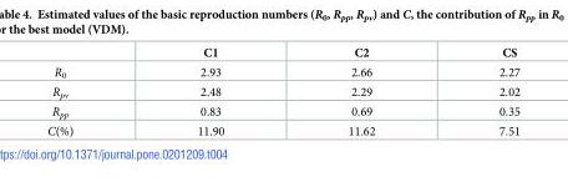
<table><thead><tr><td></td><td>C1</td><td>C2</td><td>CS</td></tr></thead><tbody><tr><td>R<sub>0</sub></td><td>2.93</td><td>2.66</td><td>2.27</td></tr><tr><td>R<sub>pv</sub></td><td>2.48</td><td>2.29</td><td>2.02</td></tr><tr><td>R<sub>pp</sub></td><td>0.83</td><td>0.69</td><td>0.35</td></tr><tr><td>C(%)</td><td>11.90</td><td>11.62</td><td>7.51</td></tr></tbody></table>